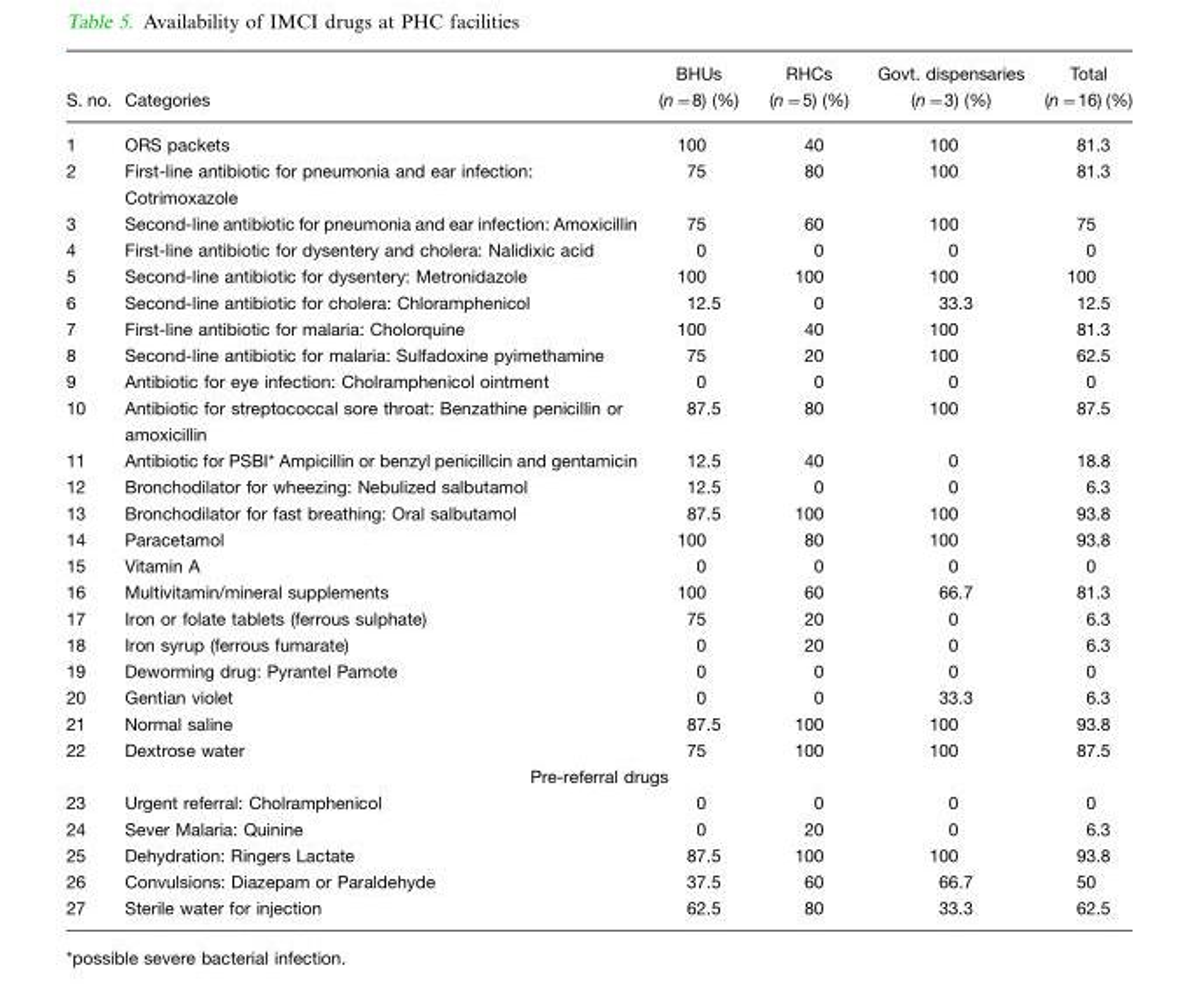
<table><thead><tr><td>S. no.</td><td>Categories</td><td>BHUs (n=8) (%)</td><td>RHCs (n=5) (%)</td><td>Govt. dispensaries (n=3) (%)</td><td>Total (n=16) (%)</td></tr></thead><tbody><tr><td>1</td><td>ORS packets</td><td>100</td><td>40</td><td>100</td><td>81.3</td></tr><tr><td>2</td><td>First-line antibiotic for pneumonia and ear infection: Cotrimoxazole</td><td>75</td><td>80</td><td>100</td><td>81.3</td></tr><tr><td>3</td><td>Second-line antibiotic for pneumonia and ear infection: Amoxicillin</td><td>75</td><td>60</td><td>100</td><td>75</td></tr><tr><td>4</td><td>First-line antibiotic for dysentery and cholera: Nalidixic acid</td><td>0</td><td>0</td><td>0</td><td>0</td></tr><tr><td>5</td><td>Second-line antibiotic for dysentery: Metronidazole</td><td>100</td><td>100</td><td>100</td><td>100</td></tr><tr><td>6</td><td>Second-line antibiotic for cholera: Chloramphenicol</td><td>12.5</td><td>0</td><td>33.3</td><td>12.5</td></tr><tr><td>7</td><td>First-line antibiotic for malaria: Cholorquine</td><td>100</td><td>40</td><td>100</td><td>81.3</td></tr><tr><td>8</td><td>Second-line antibiotic for malaria: Sulfadoxine pyimethamine</td><td>75</td><td>20</td><td>100</td><td>62.5</td></tr><tr><td>9</td><td>Antibiotic for eye infection: Cholramphenicol ointment</td><td>0</td><td>0</td><td>0</td><td>0</td></tr><tr><td>10</td><td>Antibiotic for streptococcal sore throat: Benzathine penicillin or amoxicillin</td><td>87.5</td><td>80</td><td>100</td><td>87.5</td></tr><tr><td>11</td><td>Antibiotic for PSBI* Ampicillin or benzyl penicillcin and gentamicin</td><td>12.5</td><td>40</td><td>0</td><td>18.8</td></tr><tr><td>12</td><td>Bronchodilator for wheezing: Nebulized salbutamol</td><td>12.5</td><td>0</td><td>0</td><td>6.3</td></tr><tr><td>13</td><td>Bronchodilator for fast breathing: Oral salbutamol</td><td>87.5</td><td>100</td><td>100</td><td>93.8</td></tr><tr><td>14</td><td>Paracetamol</td><td>100</td><td>80</td><td>100</td><td>93.8</td></tr><tr><td>15</td><td>Vitamin A</td><td>0</td><td>0</td><td>0</td><td>0</td></tr><tr><td>16</td><td>Multivitamin/mineral supplements</td><td>100</td><td>60</td><td>66.7</td><td>81.3</td></tr><tr><td>17</td><td>Iron or folate tablets (ferrous sulphate)</td><td>75</td><td>20</td><td>0</td><td>6.3</td></tr><tr><td>18</td><td>Iron syrup (ferrous fumarate)</td><td>0</td><td>20</td><td>0</td><td>6.3</td></tr><tr><td>19</td><td>Deworming drug: Pyrantel Pamote</td><td>0</td><td>0</td><td>0</td><td>0</td></tr><tr><td>20</td><td>Gentian violet</td><td>0</td><td>0</td><td>33.3</td><td>6.3</td></tr><tr><td>21</td><td>Normal saline</td><td>87.5</td><td>100</td><td>100</td><td>93.8</td></tr><tr><td>22</td><td>Dextrose water</td><td>75</td><td>100</td><td>100</td><td>87.5</td></tr><tr><td colspan="6">Pre-referral drugs</td></tr><tr><td>23</td><td>Urgent referral: Cholramphenicol</td><td>0</td><td>0</td><td>0</td><td>0</td></tr><tr><td>24</td><td>Sever Malaria: Quinine</td><td>0</td><td>20</td><td>0</td><td>6.3</td></tr><tr><td>25</td><td>Dehydration: Ringers Lactate</td><td>87.5</td><td>100</td><td>100</td><td>93.8</td></tr><tr><td>26</td><td>Convulsions: Diazepam or Paraldehyde</td><td>37.5</td><td>60</td><td>66.7</td><td>50</td></tr><tr><td>27</td><td>Sterile water for injection</td><td>62.5</td><td>80</td><td>33.3</td><td>62.5</td></tr></tbody></table>